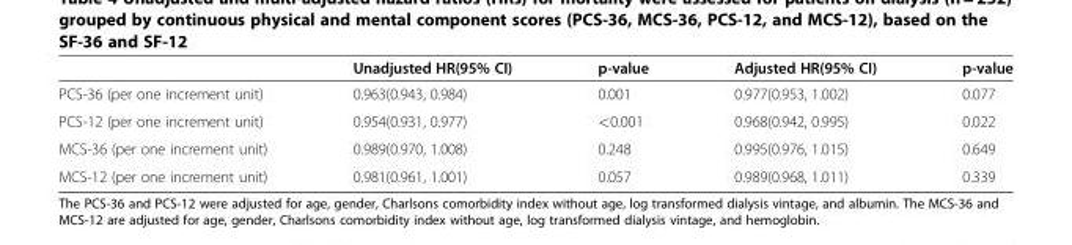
<table><thead><tr><td></td><td>Unadjusted HR(95% CI)</td><td>p-value</td><td>Adjusted HR(95% CI)</td><td>p-value</td></tr></thead><tbody><tr><td>PCS-36 (per one increment unit)</td><td>0.963(0.943, 0.984)</td><td>0.001</td><td>0.977(0.953, 1.002)</td><td>0.077</td></tr><tr><td>PCS-12 (per one increment unit)</td><td>0.954(0.931, 0.977)</td><td>&lt;0.001</td><td>0.968(0.942, 0.995)</td><td>0.022</td></tr><tr><td>MCS-36 (per one increment unit)</td><td>0.989(0.970, 1.008)</td><td>0.248</td><td>0.995(0.976, 1.015)</td><td>0.649</td></tr><tr><td>MCS-12 (per one increment unit)</td><td>0.981(0.961, 1.001)</td><td>0.057</td><td>0.989(0.968, 1.011)</td><td>0.339</td></tr></tbody></table>